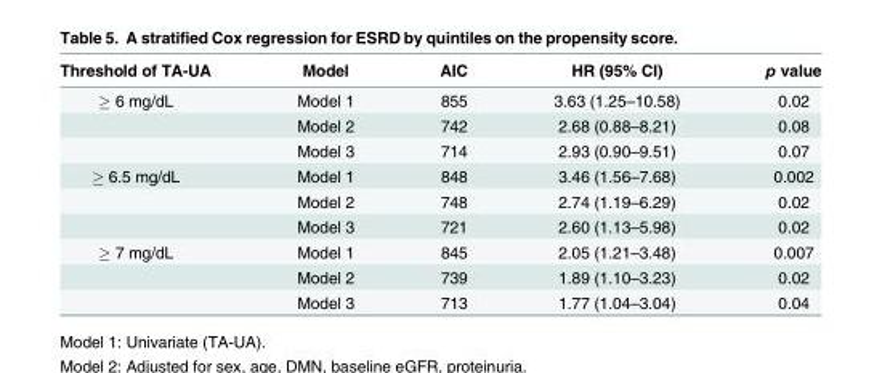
<table><thead><tr><td>Threshold of TA-UA</td><td>Model</td><td>AIC</td><td>HR (95% CI)</td><td>p value</td></tr></thead><tbody><tr><td rowspan="3">≥ 6 mg/dL</td><td>Model 1</td><td>855</td><td>3.63 (1.25–10.58)</td><td>0.02</td></tr><tr><td>Model 2</td><td>742</td><td>2.68 (0.88–8.21)</td><td>0.08</td></tr><tr><td>Model 3</td><td>714</td><td>2.93 (0.90–9.51)</td><td>0.07</td></tr><tr><td rowspan="3">≥ 6.5 mg/dL</td><td>Model 1</td><td>848</td><td>3.46 (1.56–7.68)</td><td>0.002</td></tr><tr><td>Model 2</td><td>748</td><td>2.74 (1.19–6.29)</td><td>0.02</td></tr><tr><td>Model 3</td><td>721</td><td>2.60 (1.13–5.98)</td><td>0.02</td></tr><tr><td rowspan="3">≥ 7 mg/dL</td><td>Model 1</td><td>845</td><td>2.05 (1.21–3.48)</td><td>0.007</td></tr><tr><td>Model 2</td><td>739</td><td>1.89 (1.10–3.23)</td><td>0.02</td></tr><tr><td>Model 3</td><td>713</td><td>1.77 (1.04–3.04)</td><td>0.04</td></tr></tbody></table>